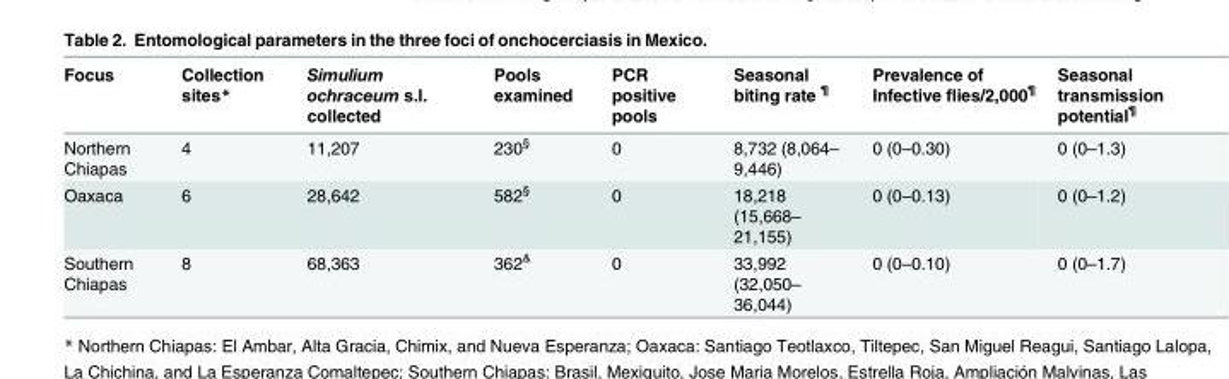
<table><thead><tr><td>Focus</td><td>Collection sites*</td><td>Simulium ochraceum s.l. collected</td><td>Pools examined</td><td>PCR positive pools</td><td>Seasonal biting rate <sup>¶</sup></td><td>Prevalence of Infective flies/2,000<sup>¶</sup></td><td>Seasonal transmission potential<sup>¶</sup></td></tr></thead><tbody><tr><td>Northern Chiapas</td><td>4</td><td>11,207</td><td>230<sup>§</sup></td><td>0</td><td>8,732 (8,064– 9,446)</td><td>0 (0–0.30)</td><td>0 (0–1.3)</td></tr><tr><td>Oaxaca</td><td>6</td><td>28,642</td><td>582<sup>§</sup></td><td>0</td><td>18,218 (15,668– 21,155)</td><td>0 (0–0.13)</td><td>0 (0–1.2)</td></tr><tr><td>Southern Chiapas</td><td>8</td><td>68,363</td><td>362<sup>&amp;</sup></td><td>0</td><td>33,992 (32,050– 36,044)</td><td>0 (0–0.10)</td><td>0 (0–1.7)</td></tr></tbody></table>